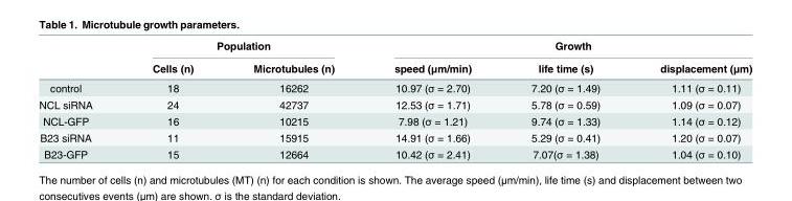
<table><thead><tr><td rowspan="2"></td><td colspan="2">Population</td><td colspan="3">Growth</td></tr><tr><td>Cells (n)</td><td>Microtubules (n)</td><td>speed (μm/min)</td><td>life time (s)</td><td>displacement (μm)</td></tr></thead><tbody><tr><td>control</td><td>18</td><td>16262</td><td>10.97 (σ = 2.70)</td><td>7.20 (σ = 1.49)</td><td>1.11 (σ = 0.11)</td></tr><tr><td>NCL siRNA</td><td>24</td><td>42737</td><td>12.53 (σ = 1.71)</td><td>5.78 (σ = 0.59)</td><td>1.09 (σ = 0.07)</td></tr><tr><td>NCL-GFP</td><td>16</td><td>10215</td><td>7.98 (σ = 1.21)</td><td>9.74 (σ = 1.33)</td><td>1.14 (σ = 0.12)</td></tr><tr><td>B23 siRNA</td><td>11</td><td>15915</td><td>14.91 (σ = 1.66)</td><td>5.29 (σ = 0.41)</td><td>1.20 (σ = 0.07)</td></tr><tr><td>B23-GFP</td><td>15</td><td>12664</td><td>10.42 (σ = 2.41)</td><td>7.07(σ = 1.38)</td><td>1.04 (σ = 0.10)</td></tr></tbody></table>